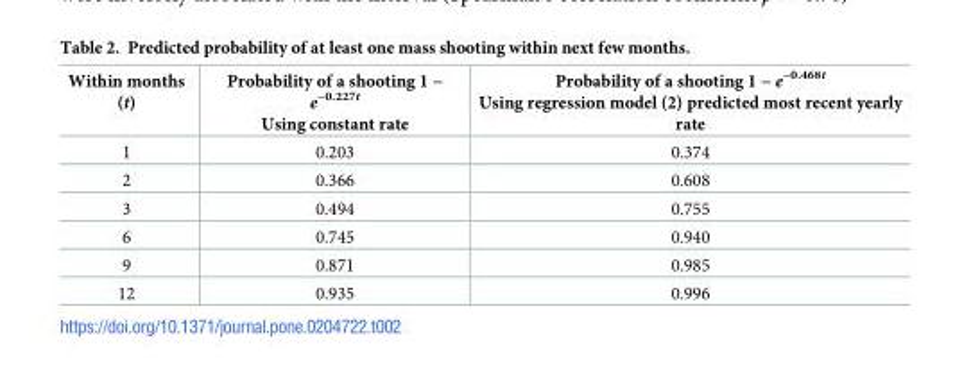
<table><thead><tr><td>Within months (t)</td><td>Probability of a shooting 1 − e<sup>−0.227t</sup> Using constant rate</td><td>Probability of a shooting 1 − e<sup>−0.468t</sup> Using regression model (2) predicted most recent yearly rate</td></tr></thead><tbody><tr><td>1</td><td>0.203</td><td>0.374</td></tr><tr><td>2</td><td>0.366</td><td>0.608</td></tr><tr><td>3</td><td>0.494</td><td>0.755</td></tr><tr><td>6</td><td>0.745</td><td>0.940</td></tr><tr><td>9</td><td>0.871</td><td>0.985</td></tr><tr><td>12</td><td>0.935</td><td>0.996</td></tr></tbody></table>